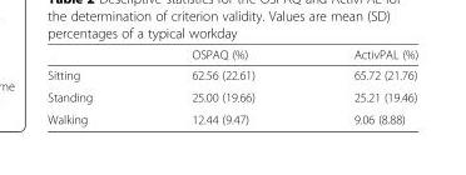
<table><thead><tr><td></td><td>OSPAQ (%)</td><td>ActivPAL (%)</td></tr></thead><tbody><tr><td>Sitting</td><td>62.56 (22.61)</td><td>65.72 (21.76)</td></tr><tr><td>Standing</td><td>25.00 (19.66)</td><td>25.21 (19.46)</td></tr><tr><td>Walking</td><td>12.44 (9.47)</td><td>9.06 (8.88)</td></tr></tbody></table>